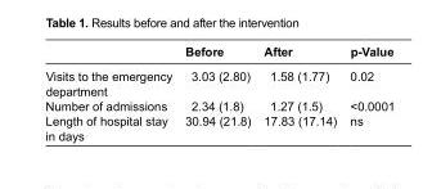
<table><thead><tr><td></td><td>Before</td><td>After</td><td>p-Value</td></tr></thead><tbody><tr><td>Visits to the emergency department</td><td>3.03 (2.80)</td><td>1.58 (1.77)</td><td>0.02</td></tr><tr><td>Number of admissions</td><td>2.34 (1.8)</td><td>1.27 (1.5)</td><td>&lt;0.0001</td></tr><tr><td>Length of hospital stay in days</td><td>30.94 (21.8)</td><td>17.83 (17.14)</td><td>ns</td></tr></tbody></table>